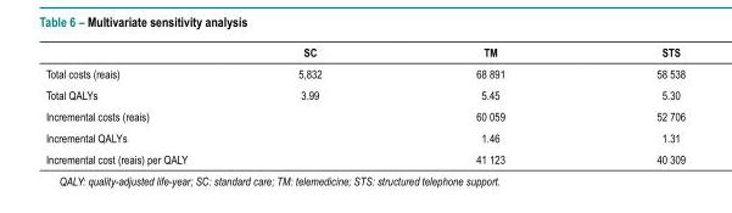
<table><thead><tr><td></td><td>SC</td><td>TM</td><td>STS</td></tr></thead><tbody><tr><td>Total costs (reais)</td><td>5,832</td><td>68 891</td><td>58 538</td></tr><tr><td>Total QALYs</td><td>3.99</td><td>5.45</td><td>5.30</td></tr><tr><td>Incremental costs (reais)</td><td></td><td>60 059</td><td>52 706</td></tr><tr><td>Incremental QALYs</td><td></td><td>1.46</td><td>1.31</td></tr><tr><td>Incremental cost (reais) per QALY</td><td></td><td>41 123</td><td>40 309</td></tr></tbody></table>